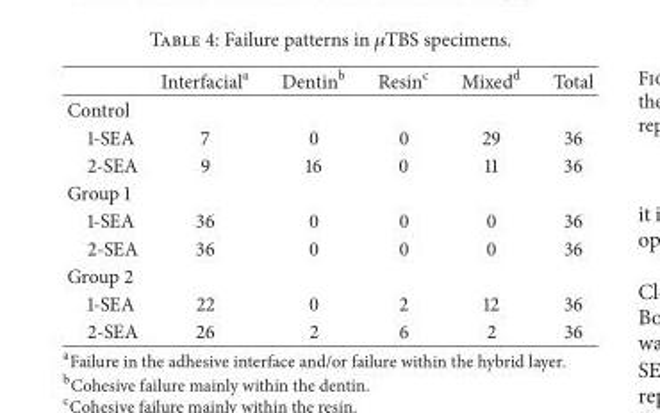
<table><thead><tr><td></td><td>Interfacial<sup>a</sup></td><td>Dentin<sup>b</sup></td><td>Resin<sup>c</sup></td><td>Mixed<sup>d</sup></td><td>Total</td></tr></thead><tbody><tr><td colspan="6">Control</td></tr><tr><td>1-SEA</td><td>7</td><td>0</td><td>0</td><td>29</td><td>36</td></tr><tr><td>2-SEA</td><td>9</td><td>16</td><td>0</td><td>11</td><td>36</td></tr><tr><td colspan="6">Group 1</td></tr><tr><td>1-SEA</td><td>36</td><td>0</td><td>0</td><td>0</td><td>36</td></tr><tr><td>2-SEA</td><td>36</td><td>0</td><td>0</td><td>0</td><td>36</td></tr><tr><td colspan="6">Group 2</td></tr><tr><td>1-SEA</td><td>22</td><td>0</td><td>2</td><td>12</td><td>36</td></tr><tr><td>2-SEA</td><td>26</td><td>2</td><td>6</td><td>2</td><td>36</td></tr></tbody></table>